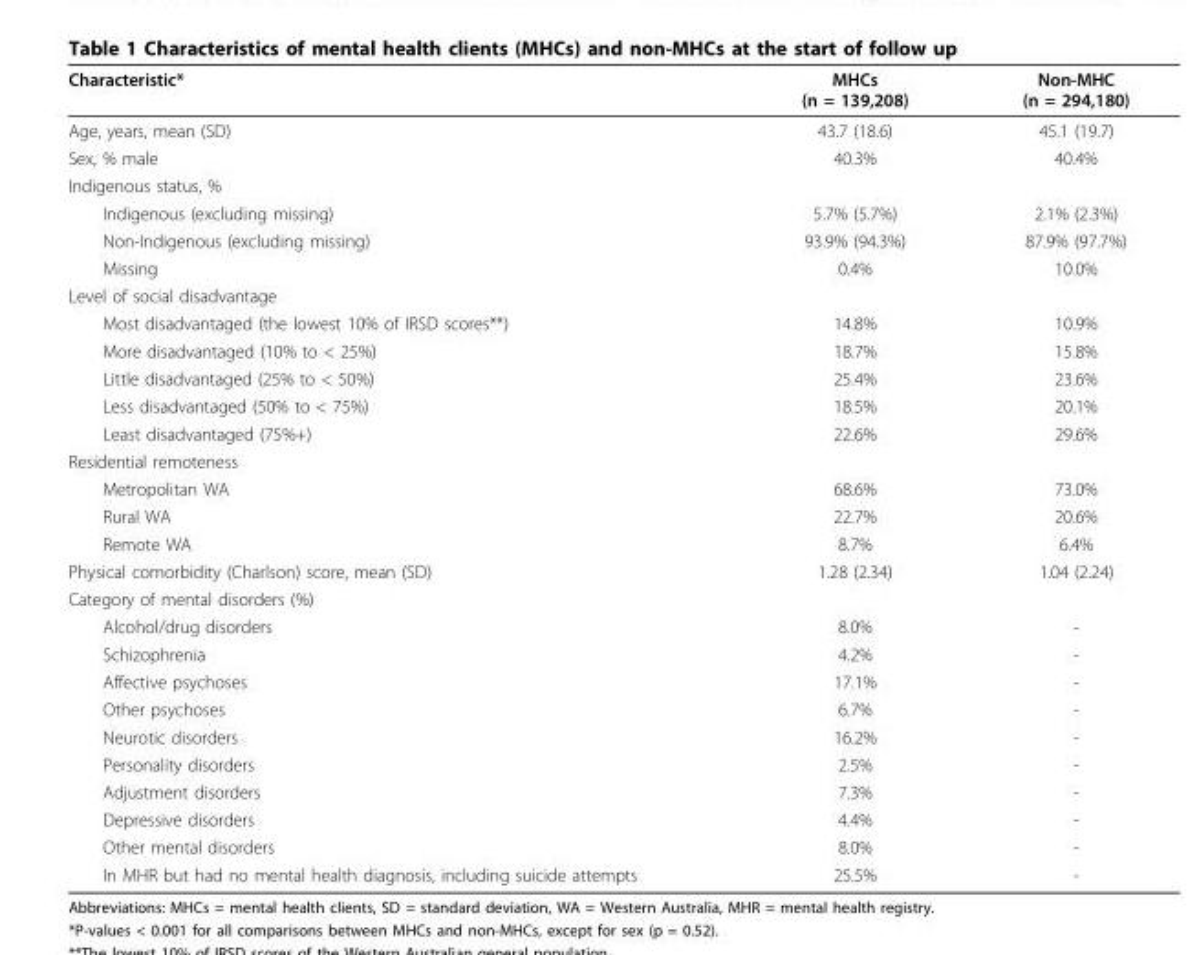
<table><thead><tr><td>Characteristic*</td><td>MHCs (n = 139,208)</td><td>Non-MHC (n = 294,180)</td></tr></thead><tbody><tr><td>Age, years, mean (SD)</td><td>43.7 (18.6)</td><td>45.1 (19.7)</td></tr><tr><td>Sex, % male</td><td>40.3%</td><td>40.4%</td></tr><tr><td colspan="3">Indigenous status, %</td></tr><tr><td>Indigenous (excluding missing)</td><td>5.7% (5.7%)</td><td>2.1% (2.3%)</td></tr><tr><td>Non-Indigenous (excluding missing)</td><td>93.9% (94.3%)</td><td>87.9% (97.7%)</td></tr><tr><td>Missing</td><td>0.4%</td><td>10.0%</td></tr><tr><td colspan="3">Level of social disadvantage</td></tr><tr><td>Most disadvantaged (the lowest 10% of IRSD scores**)</td><td>14.8%</td><td>10.9%</td></tr><tr><td>More disadvantaged (10% to &lt; 25%)</td><td>18.7%</td><td>15.8%</td></tr><tr><td>Little disadvantaged (25% to &lt; 50%)</td><td>25.4%</td><td>23.6%</td></tr><tr><td>Less disadvantaged (50% to &lt; 75%)</td><td>18.5%</td><td>20.1%</td></tr><tr><td>Least disadvantaged (75%+)</td><td>22.6%</td><td>29.6%</td></tr><tr><td colspan="3">Residential remoteness</td></tr><tr><td>Metropolitan WA</td><td>68.6%</td><td>73.0%</td></tr><tr><td>Rural WA</td><td>22.7%</td><td>20.6%</td></tr><tr><td>Remote WA</td><td>8.7%</td><td>6.4%</td></tr><tr><td>Physical comorbidity (Charlson) score, mean (SD)</td><td>1.28 (2.34)</td><td>1.04 (2.24)</td></tr><tr><td colspan="3">Category of mental disorders (%)</td></tr><tr><td>Alcohol/drug disorders</td><td>8.0%</td><td>-</td></tr><tr><td>Schizophrenia</td><td>4.2%</td><td>-</td></tr><tr><td>Affective psychoses</td><td>17.1%</td><td>-</td></tr><tr><td>Other psychoses</td><td>6.7%</td><td>-</td></tr><tr><td>Neurotic disorders</td><td>16.2%</td><td>-</td></tr><tr><td>Personality disorders</td><td>2.5%</td><td>-</td></tr><tr><td>Adjustment disorders</td><td>7.3%</td><td>-</td></tr><tr><td>Depressive disorders</td><td>4.4%</td><td>-</td></tr><tr><td>Other mental disorders</td><td>8.0%</td><td>-</td></tr><tr><td>In MHR but had no mental health diagnosis, including suicide attempts</td><td>25.5%</td><td>-</td></tr></tbody></table>